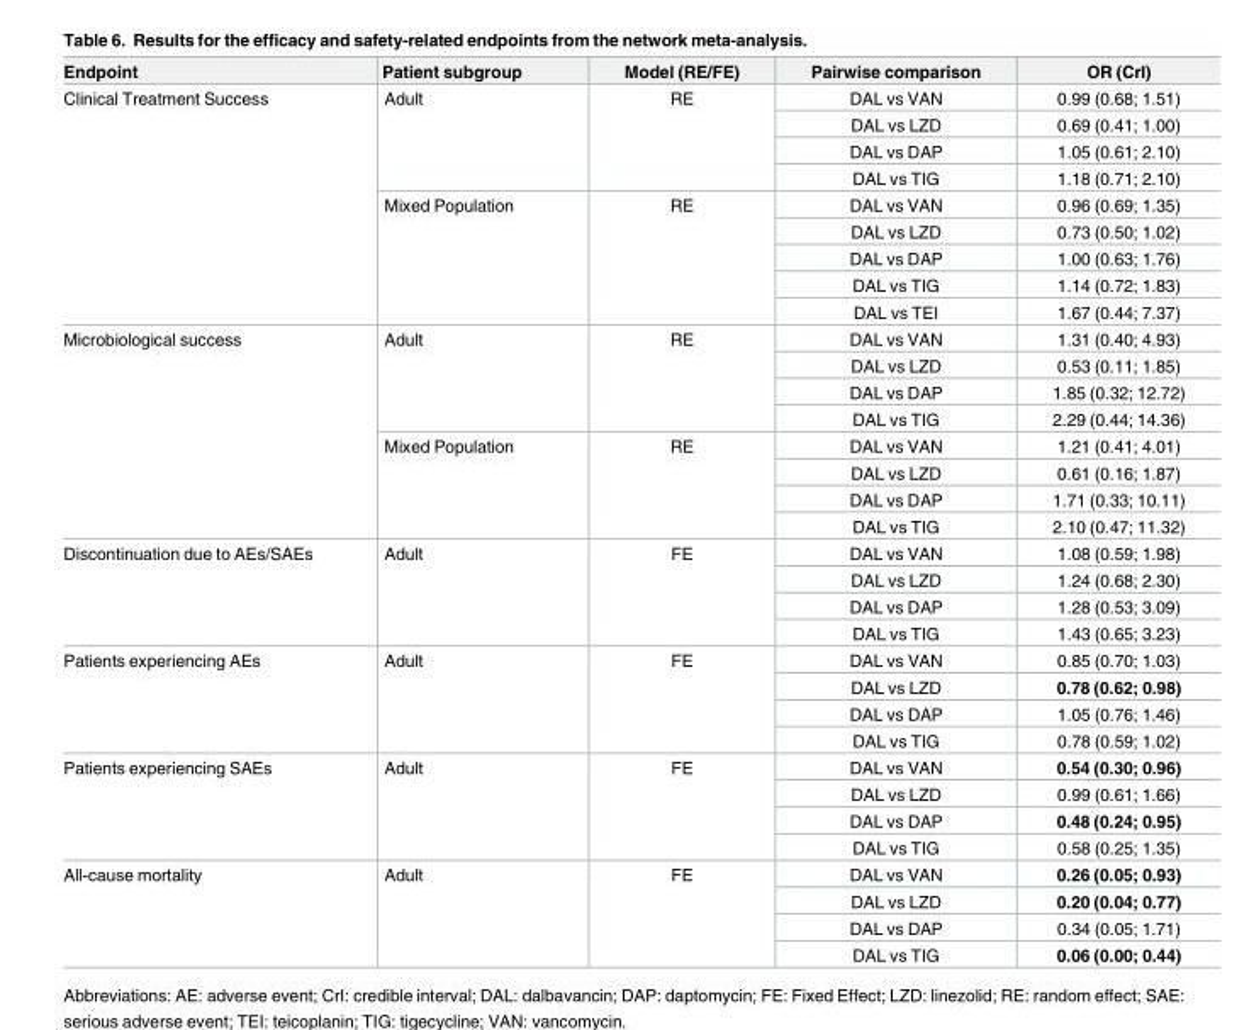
<table><thead><tr><td>Endpoint</td><td>Patient subgroup</td><td>Model (RE/FE)</td><td>Pairwise comparison</td><td>OR (CrI)</td></tr></thead><tbody><tr><td rowspan="9">Clinical Treatment Success</td><td rowspan="4">Adult</td><td rowspan="4">RE</td><td>DAL vs VAN</td><td>0.99 (0.68; 1.51)</td></tr><tr><td>DAL vs LZD</td><td>0.69 (0.41; 1.00)</td></tr><tr><td>DAL vs DAP</td><td>1.05 (0.61; 2.10)</td></tr><tr><td>DAL vs TIG</td><td>1.18 (0.71; 2.10)</td></tr><tr><td rowspan="5">Mixed Population</td><td rowspan="5">RE</td><td>DAL vs VAN</td><td>0.96 (0.69; 1.35)</td></tr><tr><td>DAL vs LZD</td><td>0.73 (0.50; 1.02)</td></tr><tr><td>DAL vs DAP</td><td>1.00 (0.63; 1.76)</td></tr><tr><td>DAL vs TIG</td><td>1.14 (0.72; 1.83)</td></tr><tr><td>DAL vs TEI</td><td>1.67 (0.44; 7.37)</td></tr><tr><td rowspan="8">Microbiological success</td><td rowspan="4">Adult</td><td rowspan="4">RE</td><td>DAL vs VAN</td><td>1.31 (0.40; 4.93)</td></tr><tr><td>DAL vs LZD</td><td>0.53 (0.11; 1.85)</td></tr><tr><td>DAL vs DAP</td><td>1.85 (0.32; 12.72)</td></tr><tr><td>DAL vs TIG</td><td>2.29 (0.44; 14.36)</td></tr><tr><td rowspan="4">Mixed Population</td><td rowspan="4">RE</td><td>DAL vs VAN</td><td>1.21 (0.41; 4.01)</td></tr><tr><td>DAL vs LZD</td><td>0.61 (0.16; 1.87)</td></tr><tr><td>DAL vs DAP</td><td>1.71 (0.33; 10.11)</td></tr><tr><td>DAL vs TIG</td><td>2.10 (0.47; 11.32)</td></tr><tr><td rowspan="4">Discontinuation due to AEs/SAEs</td><td rowspan="4">Adult</td><td rowspan="4">FE</td><td>DAL vs VAN</td><td>1.08 (0.59; 1.98)</td></tr><tr><td>DAL vs LZD</td><td>1.24 (0.68; 2.30)</td></tr><tr><td>DAL vs DAP</td><td>1.28 (0.53; 3.09)</td></tr><tr><td>DAL vs TIG</td><td>1.43 (0.65; 3.23)</td></tr><tr><td rowspan="4">Patients experiencing AEs</td><td rowspan="4">Adult</td><td rowspan="4">FE</td><td>DAL vs VAN</td><td>0.85 (0.70; 1.03)</td></tr><tr><td>DAL vs LZD</td><td>0.78 (0.62; 0.98)</td></tr><tr><td>DAL vs DAP</td><td>1.05 (0.76; 1.46)</td></tr><tr><td>DAL vs TIG</td><td>0.78 (0.59; 1.02)</td></tr><tr><td rowspan="4">Patients experiencing SAEs</td><td rowspan="4">Adult</td><td rowspan="4">FE</td><td>DAL vs VAN</td><td>0.54 (0.30; 0.96)</td></tr><tr><td>DAL vs LZD</td><td>0.99 (0.61; 1.66)</td></tr><tr><td>DAL vs DAP</td><td>0.48 (0.24; 0.95)</td></tr><tr><td>DAL vs TIG</td><td>0.58 (0.25; 1.35)</td></tr><tr><td rowspan="4">All-cause mortality</td><td rowspan="4">Adult</td><td rowspan="4">FE</td><td>DAL vs VAN</td><td>0.26 (0.05; 0.93)</td></tr><tr><td>DAL vs LZD</td><td>0.20 (0.04; 0.77)</td></tr><tr><td>DAL vs DAP</td><td>0.34 (0.05; 1.71)</td></tr><tr><td>DAL vs TIG</td><td>0.06 (0.00; 0.44)</td></tr></tbody></table>